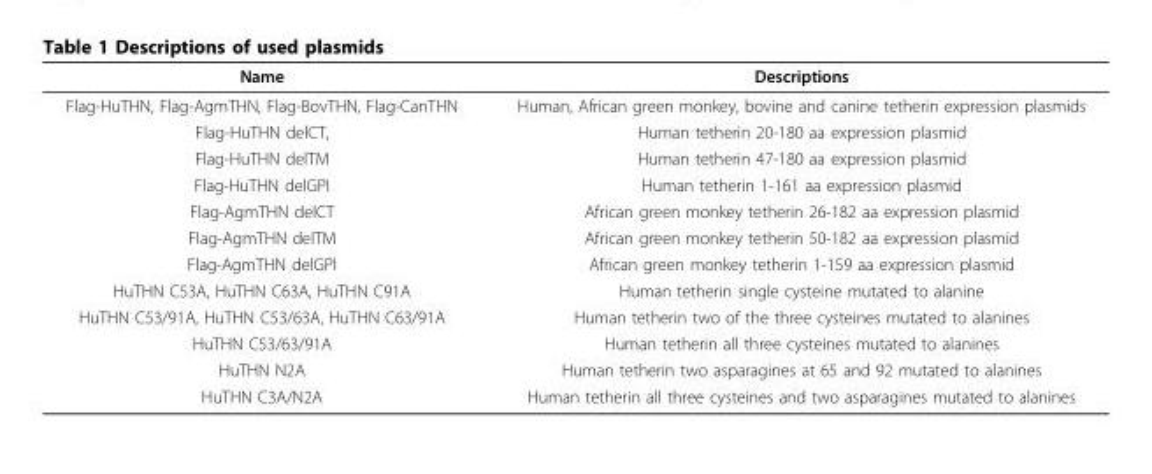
<table><thead><tr><td>Name</td><td>Descriptions</td></tr></thead><tbody><tr><td>Flag-HuTHN, Flag-AgmTHN, Flag-BovTHN, Flag-CanTHN</td><td>Human, African green monkey, bovine and canine tetherin expression plasmids</td></tr><tr><td>Flag-HuTHN delCT,</td><td>Human tetherin 20-180 aa expression plasmid</td></tr><tr><td>Flag-HuTHN delTM</td><td>Human tetherin 47-180 aa expression plasmid</td></tr><tr><td>Flag-HuTHN delGPI</td><td>Human tetherin 1-161 aa expression plasmid</td></tr><tr><td>Flag-AgmTHN delCT</td><td>African green monkey tetherin 26-182 aa expression plasmid</td></tr><tr><td>Flag-AgmTHN delTM</td><td>African green monkey tetherin 50-182 aa expression plasmid</td></tr><tr><td>Flag-AgmTHN delGPI</td><td>African green monkey tetherin 1-159 aa expression plasmid</td></tr><tr><td>HuTHN C53A, HuTHN C63A, HuTHN C91A</td><td>Human tetherin single cysteine mutated to alanine</td></tr><tr><td>HuTHN C53/91A, HuTHN C53/63A, HuTHN C63/91A</td><td>Human tetherin two of the three cysteines mutated to alanines</td></tr><tr><td>HuTHN C53/63/91A</td><td>Human tetherin all three cysteines mutated to alanines</td></tr><tr><td>HuTHN N2A</td><td>Human tetherin two asparagines at 65 and 92 mutated to alanines</td></tr><tr><td>HuTHN C3A/N2A</td><td>Human tetherin all three cysteines and two asparagines mutated to alanines</td></tr></tbody></table>